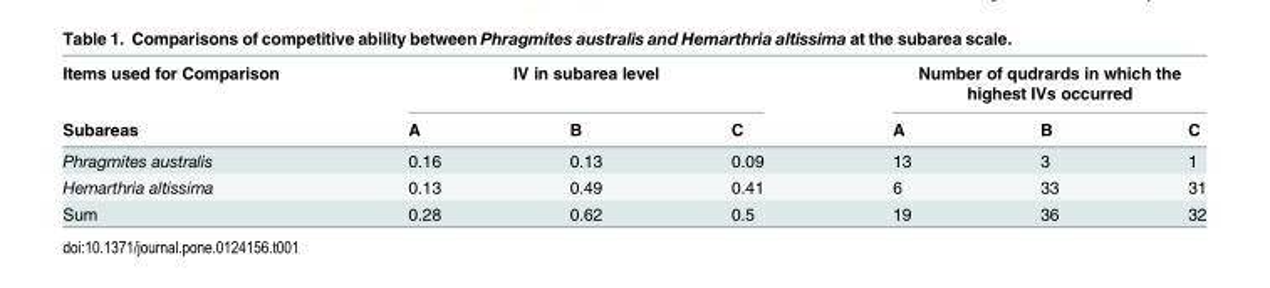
<table><thead><tr><td rowspan="2">Items used for Comparison Subareas</td><td colspan="3">IV in subarea level</td><td colspan="3">Number of qudrards in which the highest IVs occurred</td></tr><tr><td>A</td><td>B</td><td>C</td><td>A</td><td>B</td><td>C</td></tr></thead><tbody><tr><td>Phragmites australis</td><td>0.16</td><td>0.13</td><td>0.09</td><td>13</td><td>3</td><td>1</td></tr><tr><td>Hemarthria altissima</td><td>0.13</td><td>0.49</td><td>0.41</td><td>6</td><td>33</td><td>31</td></tr><tr><td>Sum</td><td>0.28</td><td>0.62</td><td>0.5</td><td>19</td><td>36</td><td>32</td></tr></tbody></table>